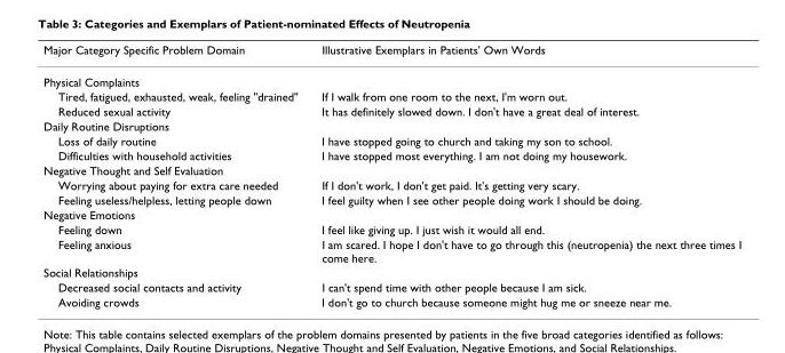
<table><thead><tr><td>Major Category Specific Problem Domain</td><td>Illustrative Exemplars in Patients&#x27; Own Words</td></tr></thead><tbody><tr><td colspan="2">Physical Complaints</td></tr><tr><td>Tired, fatigued, exhausted, weak, feeling &quot;drained&quot;</td><td>If I walk from one room to the next, I&#x27;m worn out.</td></tr><tr><td>Reduced sexual activity</td><td>It has definitely slowed down. I don&#x27;t have a great deal of interest.</td></tr><tr><td colspan="2">Daily Routine Disruptions</td></tr><tr><td>Loss of daily routine</td><td>I have stopped going to church and taking my son to school.</td></tr><tr><td>Difficulties with household activities</td><td>I have stopped most everything. I am not doing my housework.</td></tr><tr><td colspan="2">Negative Thought and Self Evaluation</td></tr><tr><td>Worrying about paying for extra care needed</td><td>If I don&#x27;t work, I don&#x27;t get paid. It&#x27;s getting very scary.</td></tr><tr><td>Feeling useless/helpless, letting people down</td><td>I feel guilty when I see other people doing work I should be doing.</td></tr><tr><td colspan="2">Negative Emotions</td></tr><tr><td>Feeling down</td><td>I feel like giving up. I just wish it would all end.</td></tr><tr><td>Feeling anxious</td><td>I am scared. I hope I don&#x27;t have to go through this (neutropenia) the next three times I come here.</td></tr><tr><td colspan="2">Social Relationships</td></tr><tr><td>Decreased social contacts and activity</td><td>I can&#x27;t spend time with other people because I am sick.</td></tr><tr><td>Avoiding crowds</td><td>I don&#x27;t go to church because someone might hug me or sneeze near me.</td></tr></tbody></table>